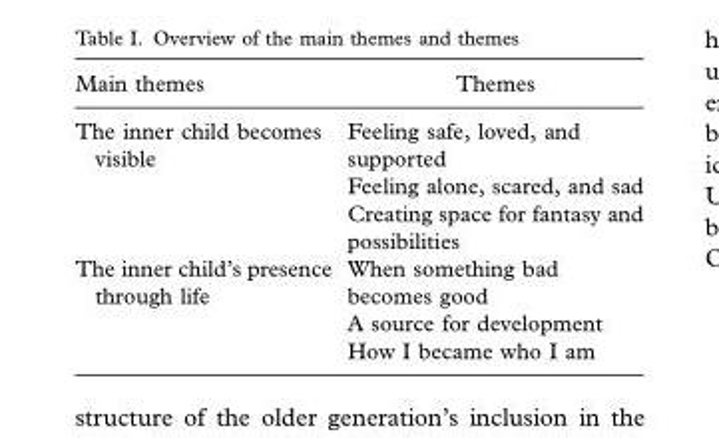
<table><thead><tr><td>Main themes</td><td>Themes</td></tr></thead><tbody><tr><td>The inner child becomes visible</td><td>Feeling safe, loved, and supported Feeling alone, scared, and sad Creating space for fantasy and possibilities</td></tr><tr><td>The inner child’s presence through life</td><td>When something bad becomes good A source for development How I became who I am</td></tr></tbody></table>